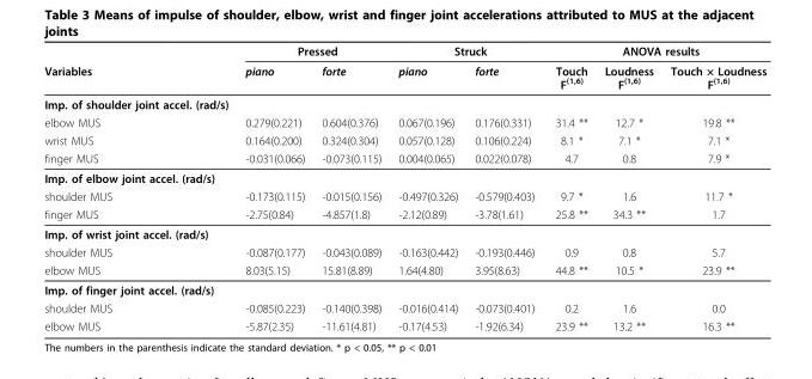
<table><thead><tr><td rowspan="2">Variables</td><td colspan="2">Pressed</td><td colspan="2">Struck</td><td colspan="3">ANOVA results</td></tr><tr><td>piano</td><td>forte</td><td>piano</td><td>forte</td><td>Touch F<sup>(1,6)</sup></td><td>Loudness F<sup>(1,6)</sup></td><td>Touch × Loudness F<sup>(1,6)</sup></td></tr></thead><tbody><tr><td colspan="8">Imp. of shoulder joint accel. (rad/s)</td></tr><tr><td>elbow MUS</td><td>0.279(0.221)</td><td>0.604(0.376)</td><td>0.067(0.196)</td><td>0.176(0.331)</td><td>31.4 **</td><td>12.7 *</td><td>19.8 **</td></tr><tr><td>wrist MUS</td><td>0.164(0.200)</td><td>0.324(0.304)</td><td>0.057(0.128)</td><td>0.106(0.224)</td><td>8.1 *</td><td>7.1 *</td><td>7.1 *</td></tr><tr><td>finger MUS</td><td>-0.031(0.066)</td><td>-0.073(0.115)</td><td>0.004(0.065)</td><td>0.022(0.078)</td><td>4.7</td><td>0.8</td><td>7.9 *</td></tr><tr><td colspan="8">Imp. of elbow joint accel. (rad/s)</td></tr><tr><td>shoulder MUS</td><td>-0.173(0.115)</td><td>-0.015(0.156)</td><td>-0.497(0.326)</td><td>-0.579(0.403)</td><td>9.7 *</td><td>1.6</td><td>11.7 *</td></tr><tr><td>finger MUS</td><td>-2.75(0.84)</td><td>-4.857(1.8)</td><td>-2.12(0.89)</td><td>-3.78(1.61)</td><td>25.8 **</td><td>34.3 **</td><td>1.7</td></tr><tr><td colspan="8">Imp. of wrist joint accel. (rad/s)</td></tr><tr><td>shoulder MUS</td><td>-0.087(0.177)</td><td>-0.043(0.089)</td><td>-0.163(0.442)</td><td>-0.193(0.446)</td><td>0.9</td><td>0.8</td><td>5.7</td></tr><tr><td>elbow MUS</td><td>8.03(5.15)</td><td>15.81(8.89)</td><td>1.64(4.80)</td><td>3.95(8.63)</td><td>44.8 **</td><td>10.5 *</td><td>23.9 **</td></tr><tr><td colspan="8">Imp. of finger joint accel. (rad/s)</td></tr><tr><td>shoulder MUS</td><td>-0.085(0.223)</td><td>-0.140(0.398)</td><td>-0.016(0.414)</td><td>-0.073(0.401)</td><td>0.2</td><td>1.6</td><td>0.0</td></tr><tr><td>elbow MUS</td><td>-5.87(2.35)</td><td>-11.61(4.81)</td><td>-0.17(4.53)</td><td>-1.92(6.34)</td><td>23.9 **</td><td>13.2 **</td><td>16.3 **</td></tr></tbody></table>